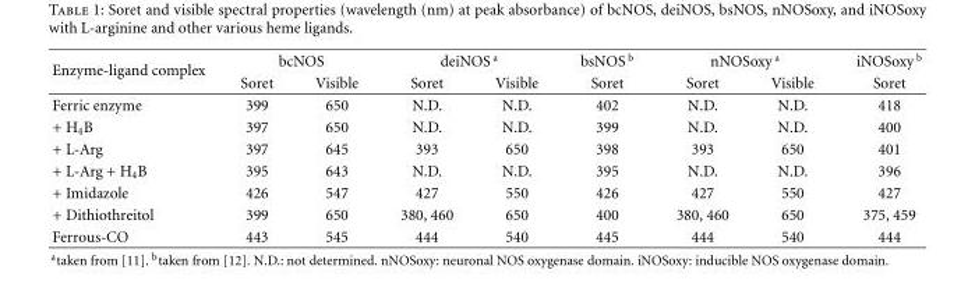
<table><thead><tr><td rowspan="2">Enzyme-ligand complex</td><td colspan="2">bcNOS</td><td colspan="2">deiNOS <sup>a</sup></td><td rowspan="2">bsNOS <sup>b</sup> Soret</td><td colspan="2">nNOSoxy <sup>a</sup></td><td rowspan="2">iNOSoxy <sup>b</sup> Soret</td></tr><tr><td>Soret</td><td>Visible</td><td>Soret</td><td>Visible</td><td>Soret</td><td>Visible</td></tr></thead><tbody><tr><td>Ferric enzyme</td><td>399</td><td>650</td><td>N.D.</td><td>N.D.</td><td>402</td><td>N.D.</td><td>N.D.</td><td>418</td></tr><tr><td>+ H<sub>4</sub>B</td><td>397</td><td>650</td><td>N.D.</td><td>N.D.</td><td>399</td><td>N.D.</td><td>N.D.</td><td>400</td></tr><tr><td>+ L-Arg</td><td>397</td><td>645</td><td>393</td><td>650</td><td>398</td><td>393</td><td>650</td><td>401</td></tr><tr><td>+ L-Arg + H<sub>4</sub>B</td><td>395</td><td>643</td><td>N.D.</td><td>N.D.</td><td>395</td><td>N.D.</td><td>N.D.</td><td>396</td></tr><tr><td>+ Imidazole</td><td>426</td><td>547</td><td>427</td><td>550</td><td>426</td><td>427</td><td>550</td><td>427</td></tr><tr><td>+ Dithiothreitol</td><td>399</td><td>650</td><td>380, 460</td><td>650</td><td>400</td><td>380, 460</td><td>650</td><td>375, 459</td></tr><tr><td>Ferrous-CO</td><td>443</td><td>545</td><td>444</td><td>540</td><td>445</td><td>444</td><td>540</td><td>444</td></tr></tbody></table>